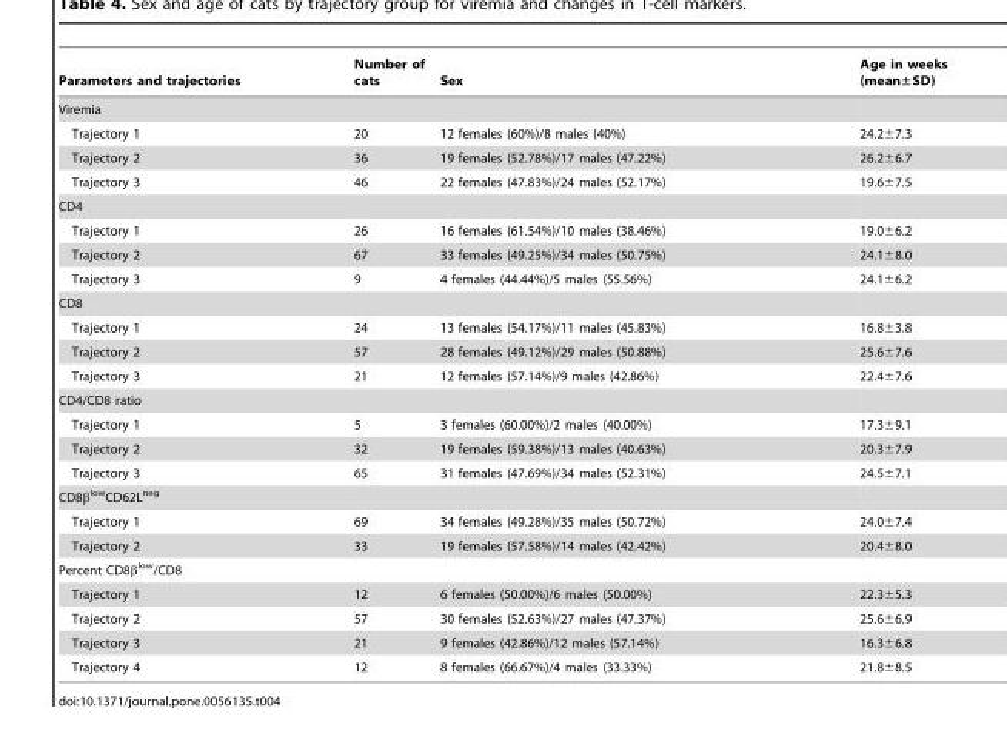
<table><thead><tr><td>Parameters and trajectories</td><td>Number of cats</td><td>Sex</td><td>Age in weeks (mean±SD)</td></tr></thead><tbody><tr><td colspan="4">Viremia</td></tr><tr><td>Trajectory 1</td><td>20</td><td>12 females (60%)/8 males (40%)</td><td>24.2±7.3</td></tr><tr><td>Trajectory 2</td><td>36</td><td>19 females (52.78%)/17 males (47.22%)</td><td>26.2±6.7</td></tr><tr><td>Trajectory 3</td><td>46</td><td>22 females (47.83%)/24 males (52.17%)</td><td>19.6±7.5</td></tr><tr><td colspan="4">CD4</td></tr><tr><td>Trajectory 1</td><td>26</td><td>16 females (61.54%)/10 males (38.46%)</td><td>19.0±6.2</td></tr><tr><td>Trajectory 2</td><td>67</td><td>33 females (49.25%)/34 males (50.75%)</td><td>24.1±8.0</td></tr><tr><td>Trajectory 3</td><td>9</td><td>4 females (44.44%)/5 males (55.56%)</td><td>24.1±6.2</td></tr><tr><td colspan="4">CD8</td></tr><tr><td>Trajectory 1</td><td>24</td><td>13 females (54.17%)/11 males (45.83%)</td><td>16.8±3.8</td></tr><tr><td>Trajectory 2</td><td>57</td><td>28 females (49.12%)/29 males (50.88%)</td><td>25.6±7.6</td></tr><tr><td>Trajectory 3</td><td>21</td><td>12 females (57.14%)/9 males (42.86%)</td><td>22.4±7.6</td></tr><tr><td colspan="4">CD4/CD8 ratio</td></tr><tr><td>Trajectory 1</td><td>5</td><td>3 females (60.00%)/2 males (40.00%)</td><td>17.3±9.1</td></tr><tr><td>Trajectory 2</td><td>32</td><td>19 females (59.38%)/13 males (40.63%)</td><td>20.3±7.9</td></tr><tr><td>Trajectory 3</td><td>65</td><td>31 females (47.69%)/34 males (52.31%)</td><td>24.5±7.1</td></tr><tr><td colspan="4">CD8β<sup>low</sup>CD62L<sup>neg</sup></td></tr><tr><td>Trajectory 1</td><td>69</td><td>34 females (49.28%)/35 males (50.72%)</td><td>24.0±7.4</td></tr><tr><td>Trajectory 2</td><td>33</td><td>19 females (57.58%)/14 males (42.42%)</td><td>20.4±8.0</td></tr><tr><td colspan="4">Percent CD8β<sup>low</sup>/CD8</td></tr><tr><td>Trajectory 1</td><td>12</td><td>6 females (50.00%)/6 males (50.00%)</td><td>22.3±5.3</td></tr><tr><td>Trajectory 2</td><td>57</td><td>30 females (52.63%)/27 males (47.37%)</td><td>25.6±6.9</td></tr><tr><td>Trajectory 3</td><td>21</td><td>9 females (42.86%)/12 males (57.14%)</td><td>16.3±6.8</td></tr><tr><td>Trajectory 4</td><td>12</td><td>8 females (66.67%)/4 males (33.33%)</td><td>21.8±8.5</td></tr></tbody></table>